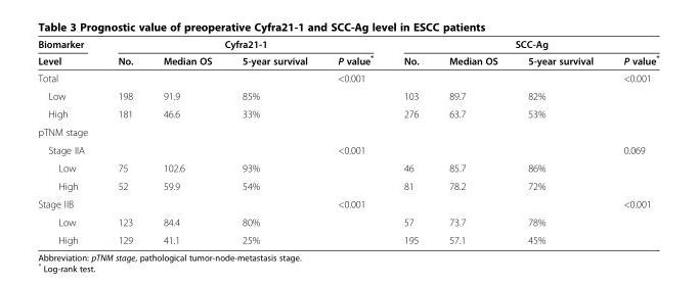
<table><thead><tr><td rowspan="2">Biomarker Level</td><td colspan="4">Cyfra21-1</td><td colspan="4">SCC-Ag</td></tr><tr><td>No.</td><td>Median OS</td><td>5-year survival</td><td>P value*</td><td>No.</td><td>Median OS</td><td>5-year survival</td><td>P value*</td></tr></thead><tbody><tr><td>Total</td><td></td><td></td><td></td><td>&lt;0.001</td><td></td><td></td><td></td><td>&lt;0.001</td></tr><tr><td>Low</td><td>198</td><td>91.9</td><td>85%</td><td></td><td>103</td><td>89.7</td><td>82%</td><td></td></tr><tr><td>High</td><td>181</td><td>46.6</td><td>33%</td><td></td><td>276</td><td>63.7</td><td>53%</td><td></td></tr><tr><td colspan="9">pTNM stage</td></tr><tr><td>Stage IIA</td><td></td><td></td><td></td><td>&lt;0.001</td><td></td><td></td><td></td><td>0.069</td></tr><tr><td>Low</td><td>75</td><td>102.6</td><td>93%</td><td></td><td>46</td><td>85.7</td><td>86%</td><td></td></tr><tr><td>High</td><td>52</td><td>59.9</td><td>54%</td><td></td><td>81</td><td>78.2</td><td>72%</td><td></td></tr><tr><td>Stage IIB</td><td></td><td></td><td></td><td>&lt;0.001</td><td></td><td></td><td></td><td>&lt;0.001</td></tr><tr><td>Low</td><td>123</td><td>84.4</td><td>80%</td><td></td><td>57</td><td>73.7</td><td>78%</td><td></td></tr><tr><td>High</td><td>129</td><td>41.1</td><td>25%</td><td></td><td>195</td><td>57.1</td><td>45%</td><td></td></tr></tbody></table>